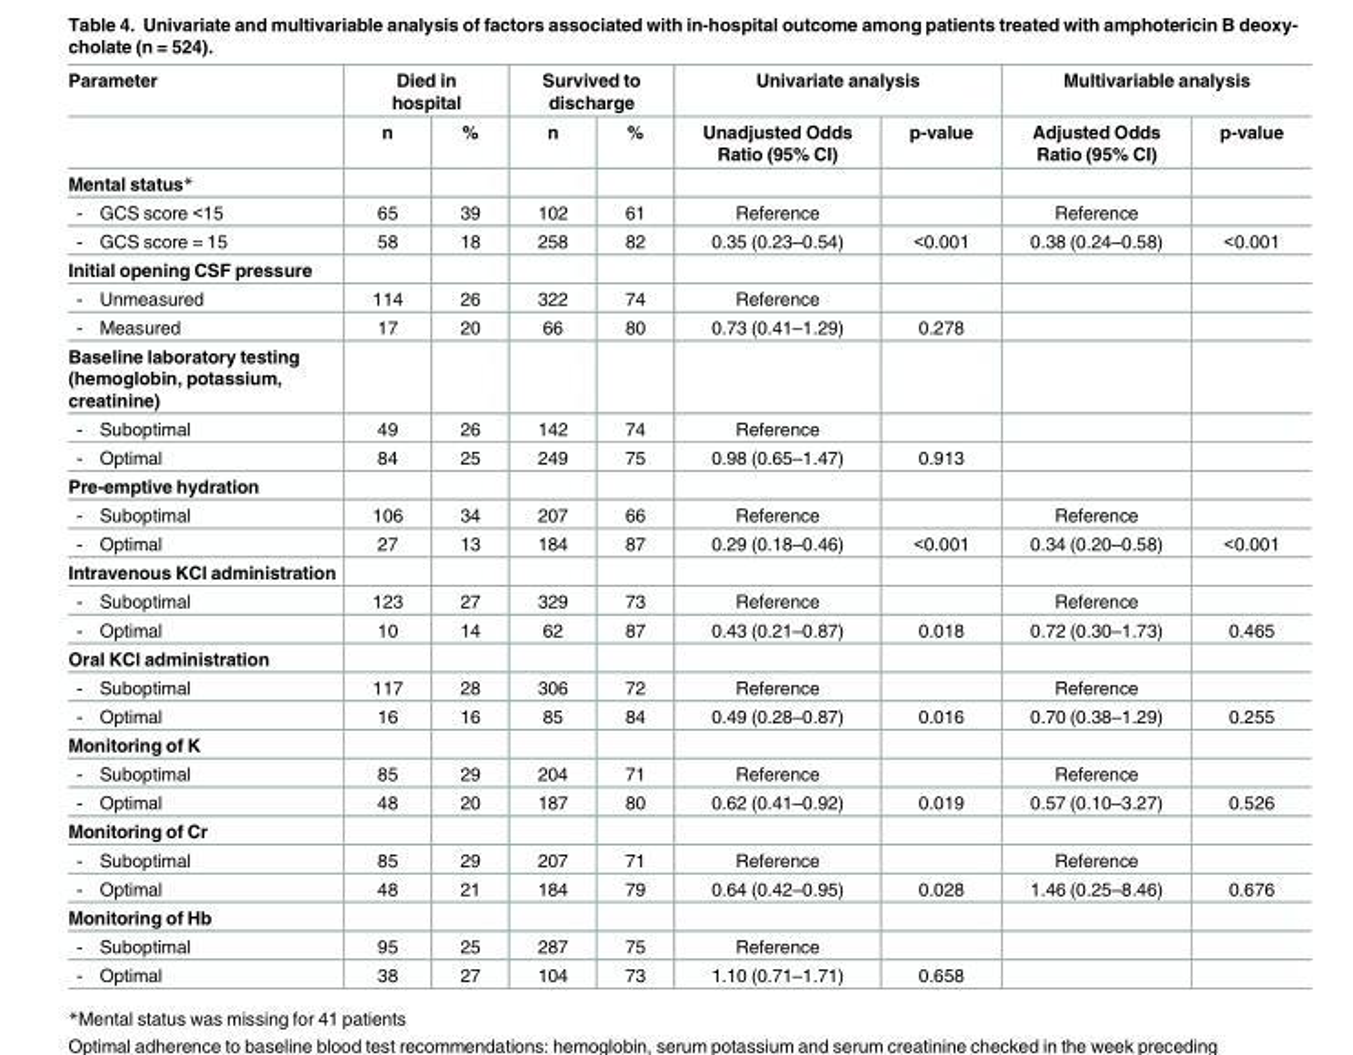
<table><thead><tr><td rowspan="2">Parameter</td><td colspan="2">Died in hospital</td><td colspan="2">Survived to discharge</td><td colspan="2">Univariate analysis</td><td colspan="2">Multivariable analysis</td></tr><tr><td>n</td><td>%</td><td>n</td><td>%</td><td>Unadjusted Odds Ratio (95% CI)</td><td>p-value</td><td>Adjusted Odds Ratio (95% CI)</td><td>p-value</td></tr></thead><tbody><tr><td colspan="9">Mental status*</td></tr><tr><td>- GCS score &lt;15</td><td>65</td><td>39</td><td>102</td><td>61</td><td>Reference</td><td></td><td>Reference</td><td></td></tr><tr><td>- GCS score = 15</td><td>58</td><td>18</td><td>258</td><td>82</td><td>0.35 (0.23–0.54)</td><td>&lt;0.001</td><td>0.38 (0.24–0.58)</td><td>&lt;0.001</td></tr><tr><td colspan="9">Initial opening CSF pressure</td></tr><tr><td>- Unmeasured</td><td>114</td><td>26</td><td>322</td><td>74</td><td>Reference</td><td></td><td></td><td></td></tr><tr><td>- Measured</td><td>17</td><td>20</td><td>66</td><td>80</td><td>0.73 (0.41–1.29)</td><td>0.278</td><td></td><td></td></tr><tr><td colspan="9">Baseline laboratory testing (hemoglobin, potassium, creatinine)</td></tr><tr><td>- Suboptimal</td><td>49</td><td>26</td><td>142</td><td>74</td><td>Reference</td><td></td><td></td><td></td></tr><tr><td>- Optimal</td><td>84</td><td>25</td><td>249</td><td>75</td><td>0.98 (0.65–1.47)</td><td>0.913</td><td></td><td></td></tr><tr><td colspan="9">Pre-emptive hydration</td></tr><tr><td>- Suboptimal</td><td>106</td><td>34</td><td>207</td><td>66</td><td>Reference</td><td></td><td>Reference</td><td></td></tr><tr><td>- Optimal</td><td>27</td><td>13</td><td>184</td><td>87</td><td>0.29 (0.18–0.46)</td><td>&lt;0.001</td><td>0.34 (0.20–0.58)</td><td>&lt;0.001</td></tr><tr><td colspan="9">Intravenous KCl administration</td></tr><tr><td>- Suboptimal</td><td>123</td><td>27</td><td>329</td><td>73</td><td>Reference</td><td></td><td>Reference</td><td></td></tr><tr><td>- Optimal</td><td>10</td><td>14</td><td>62</td><td>87</td><td>0.43 (0.21–0.87)</td><td>0.018</td><td>0.72 (0.30–1.73)</td><td>0.465</td></tr><tr><td colspan="9">Oral KCl administration</td></tr><tr><td>- Suboptimal</td><td>117</td><td>28</td><td>306</td><td>72</td><td>Reference</td><td></td><td>Reference</td><td></td></tr><tr><td>- Optimal</td><td>16</td><td>16</td><td>85</td><td>84</td><td>0.49 (0.28–0.87)</td><td>0.016</td><td>0.70 (0.38–1.29)</td><td>0.255</td></tr><tr><td colspan="9">Monitoring of K</td></tr><tr><td>- Suboptimal</td><td>85</td><td>29</td><td>204</td><td>71</td><td>Reference</td><td></td><td>Reference</td><td></td></tr><tr><td>- Optimal</td><td>48</td><td>20</td><td>187</td><td>80</td><td>0.62 (0.41–0.92)</td><td>0.019</td><td>0.57 (0.10–3.27)</td><td>0.526</td></tr><tr><td colspan="9">Monitoring of Cr</td></tr><tr><td>- Suboptimal</td><td>85</td><td>29</td><td>207</td><td>71</td><td>Reference</td><td></td><td>Reference</td><td></td></tr><tr><td>- Optimal</td><td>48</td><td>21</td><td>184</td><td>79</td><td>0.64 (0.42–0.95)</td><td>0.028</td><td>1.46 (0.25–8.46)</td><td>0.676</td></tr><tr><td colspan="9">Monitoring of Hb</td></tr><tr><td>- Suboptimal</td><td>95</td><td>25</td><td>287</td><td>75</td><td>Reference</td><td></td><td></td><td></td></tr><tr><td>- Optimal</td><td>38</td><td>27</td><td>104</td><td>73</td><td>1.10 (0.71–1.71)</td><td>0.658</td><td></td><td></td></tr></tbody></table>